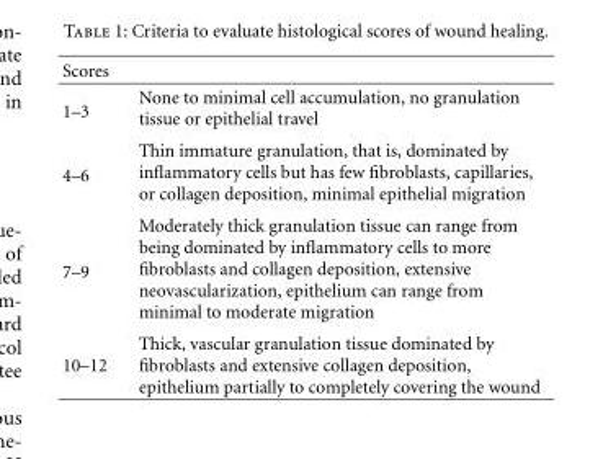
<table><thead><tr><td>Scores</td><td></td></tr></thead><tbody><tr><td>1–3</td><td>None to minimal cell accumulation, no granulation tissue or epithelial travel</td></tr><tr><td>4–6</td><td>Thin immature granulation, that is, dominated by inflammatory cells but has few fibroblasts, capillaries, or collagen deposition, minimal epithelial migration</td></tr><tr><td>7–9</td><td>Moderately thick granulation tissue can range from being dominated by inflammatory cells to more fibroblasts and collagen deposition, extensive neovascularization, epithelium can range from minimal to moderate migration</td></tr><tr><td>10–12</td><td>Thick, vascular granulation tissue dominated by fibroblasts and extensive collagen deposition, epithelium partially to completely covering the wound</td></tr></tbody></table>